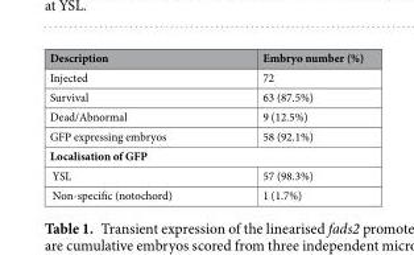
<table><thead><tr><td>Description</td><td>Embryo number (%)</td></tr></thead><tbody><tr><td>Injected</td><td>72</td></tr><tr><td>Survival</td><td>63 (87.5%)</td></tr><tr><td>Dead/Abnormal</td><td>9 (12.5%)</td></tr><tr><td>GFP expressing embryos</td><td>58 (92.1%)</td></tr><tr><td colspan="2">Localisation of GFP</td></tr><tr><td>YSL</td><td>57 (98.3%)</td></tr><tr><td>Non-specific (notochord)</td><td>1 (1.7%)</td></tr></tbody></table>